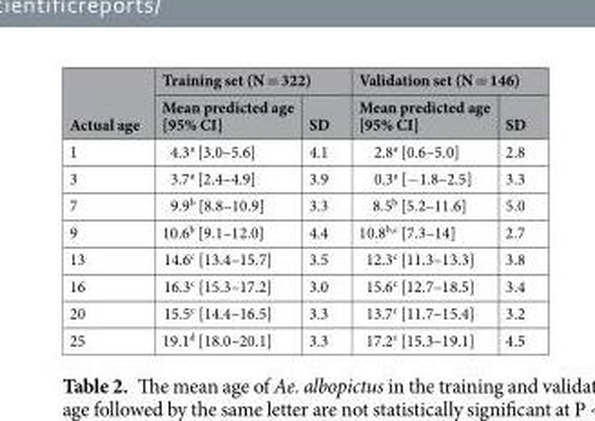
<table><thead><tr><td rowspan="2">Actual age</td><td colspan="2">Training set (N = 322)</td><td colspan="2">Validation set (N = 146)</td></tr><tr><td>Mean predicted age [95% CI]</td><td>SD</td><td>Mean predicted age [95% CI]</td><td>SD</td></tr></thead><tbody><tr><td>1</td><td>4.3<sup>a</sup> [3.0–5.6]</td><td>4.1</td><td>2.8<sup>a</sup> [0.6–5.0]</td><td>2.8</td></tr><tr><td>3</td><td>3.7<sup>a</sup> [2.4–4.9]</td><td>3.9</td><td>0.3<sup>a</sup> [−1.8–2.5]</td><td>3.3</td></tr><tr><td>7</td><td>9.9<sup>b</sup> [8.8–10.9]</td><td>3.3</td><td>8.5<sup>b</sup> [5.2–11.6]</td><td>5.0</td></tr><tr><td>9</td><td>10.6<sup>b</sup> [9.1–12.0]</td><td>4.4</td><td>10.8<sup>b,c</sup> [7.3–14]</td><td>2.7</td></tr><tr><td>13</td><td>14.6<sup>c</sup> [13.4–15.7]</td><td>3.5</td><td>12.3<sup>c</sup> [11.3–13.3]</td><td>3.8</td></tr><tr><td>16</td><td>16.3<sup>c</sup> [15.3–17.2]</td><td>3.0</td><td>15.6<sup>c</sup> [12.7–18.5]</td><td>3.4</td></tr><tr><td>20</td><td>15.5<sup>c</sup> [14.4–16.5]</td><td>3.3</td><td>13.7<sup>c</sup> [11.7–15.4]</td><td>3.2</td></tr><tr><td>25</td><td>19.1<sup>d</sup> [18.0–20.1]</td><td>3.3</td><td>17.2<sup>c</sup> [15.3–19.1]</td><td>4.5</td></tr></tbody></table>